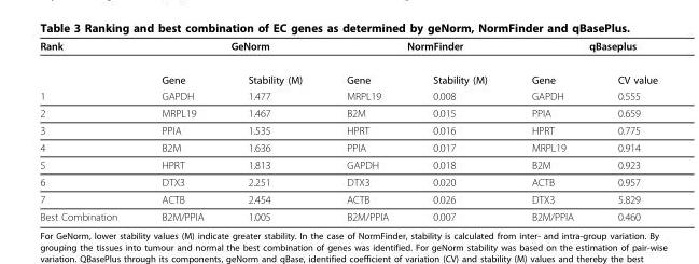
<table><thead><tr><td rowspan="2">Rank</td><td colspan="2">GeNorm</td><td colspan="2">NormFinder</td><td colspan="2">qBaseplus</td></tr><tr><td>Gene</td><td>Stability (M)</td><td>Gene</td><td>Stability (M)</td><td>Gene</td><td>CV value</td></tr></thead><tbody><tr><td>1</td><td>GAPDH</td><td>1.477</td><td>MRPL19</td><td>0.008</td><td>GAPDH</td><td>0.555</td></tr><tr><td>2</td><td>MRPL19</td><td>1.467</td><td>B2M</td><td>0.015</td><td>PPIA</td><td>0.659</td></tr><tr><td>3</td><td>PPIA</td><td>1.535</td><td>HPRT</td><td>0.016</td><td>HPRT</td><td>0.775</td></tr><tr><td>4</td><td>B2M</td><td>1.636</td><td>PPIA</td><td>0.017</td><td>MRPL19</td><td>0.914</td></tr><tr><td>5</td><td>HPRT</td><td>1.813</td><td>GAPDH</td><td>0.018</td><td>B2M</td><td>0.923</td></tr><tr><td>6</td><td>DTX3</td><td>2.251</td><td>DTX3</td><td>0.020</td><td>ACTB</td><td>0.957</td></tr><tr><td>7</td><td>ACTB</td><td>2.454</td><td>ACTB</td><td>0.026</td><td>DTX3</td><td>5.829</td></tr><tr><td>Best Combination</td><td>B2M/PPIA</td><td>1.005</td><td>B2M/PPIA</td><td>0.007</td><td>B2M/PPIA</td><td>0.460</td></tr></tbody></table>